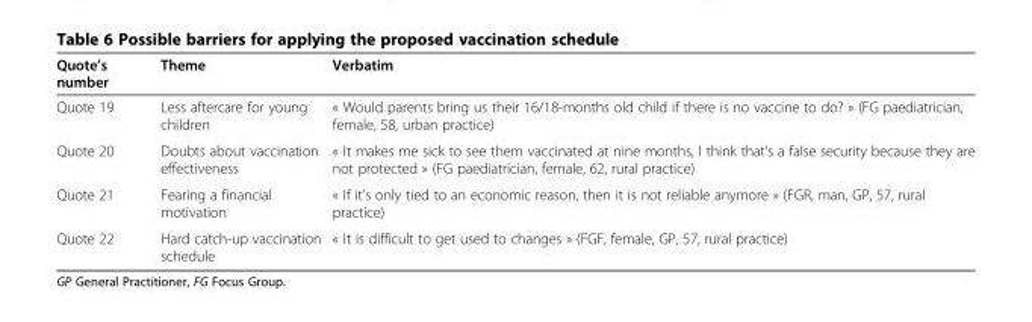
<table><thead><tr><td>Quote’s number</td><td>Theme</td><td>Verbatim</td></tr></thead><tbody><tr><td>Quote 19</td><td>Less aftercare for young children</td><td>« Would parents bring us their 16/18-months old child if there is no vaccine to do? » (FG paediatrician, female, 58, urban practice)</td></tr><tr><td>Quote 20</td><td>Doubts about vaccination effectiveness</td><td>« It makes me sick to see them vaccinated at nine months, I think that&#x27;s a false security because they are not protected » (FG paediatrician, female, 62, rural practice)</td></tr><tr><td>Quote 21</td><td>Fearing a financial motivation</td><td>« If it&#x27;s only tied to an economic reason, then it is not reliable anymore » (FGR, man, GP, 57, rural practice)</td></tr><tr><td>Quote 22</td><td>Hard catch-up vaccination schedule</td><td>« It is difficult to get used to changes » (FGF, female, GP, 57, rural practice)</td></tr></tbody></table>